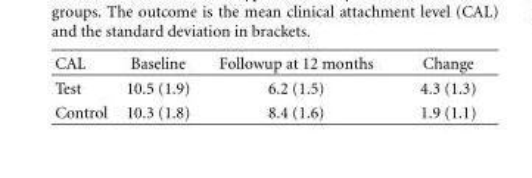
<table><thead><tr><td>CAL</td><td>Baseline</td><td>Followup at 12 months</td><td>Change</td></tr></thead><tbody><tr><td>Test</td><td>10.5 (1.9)</td><td>6.2 (1.5)</td><td>4.3 (1.3)</td></tr><tr><td>Control</td><td>10.3 (1.8)</td><td>8.4 (1.6)</td><td>1.9 (1.1)</td></tr></tbody></table>